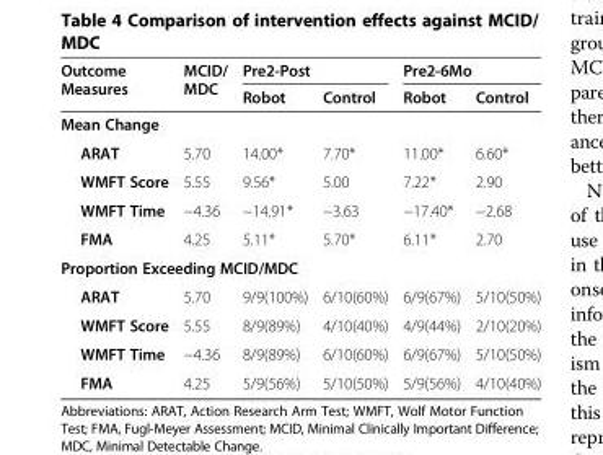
<table><thead><tr><td rowspan="2">Outcome Measures</td><td rowspan="2">MCID/ MDC</td><td colspan="2">Pre2-Post</td><td colspan="2">Pre2-6Mo</td></tr><tr><td>Robot</td><td>Control</td><td>Robot</td><td>Control</td></tr></thead><tbody><tr><td colspan="6">Mean Change</td></tr><tr><td>ARAT</td><td>5.70</td><td>14.00*</td><td>7.70*</td><td>11.00*</td><td>6.60*</td></tr><tr><td>WMFT Score</td><td>5.55</td><td>9.56*</td><td>5.00</td><td>7.22*</td><td>2.90</td></tr><tr><td>WMFT Time</td><td>−4.36</td><td>−14.91*</td><td>−3.63</td><td>−17.40*</td><td>−2.68</td></tr><tr><td>FMA</td><td>4.25</td><td>5.11*</td><td>5.70*</td><td>6.11*</td><td>2.70</td></tr><tr><td colspan="6">Proportion Exceeding MCID/MDC</td></tr><tr><td>ARAT</td><td>5.70</td><td>9/9(100%)</td><td>6/10(60%)</td><td>6/9(67%)</td><td>5/10(50%)</td></tr><tr><td>WMFT Score</td><td>5.55</td><td>8/9(89%)</td><td>4/10(40%)</td><td>4/9(44%)</td><td>2/10(20%)</td></tr><tr><td>WMFT Time</td><td>−4.36</td><td>8/9(89%)</td><td>6/10(60%)</td><td>6/9(67%)</td><td>5/10(50%)</td></tr><tr><td>FMA</td><td>4.25</td><td>5/9(56%)</td><td>5/10(50%)</td><td>5/9(56%)</td><td>4/10(40%)</td></tr></tbody></table>